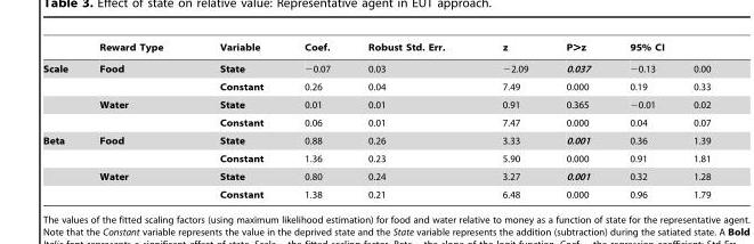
<table><thead><tr><td rowspan="2">Scale</td><td rowspan="2">Reward Type Food</td><td rowspan="2">Variable State</td><td rowspan="2">Coef. −0.07</td><td rowspan="2">Robust Std. Err. 0.03</td><td rowspan="2">z −2.09</td><td rowspan="2">P&gt;z 0.037</td><td colspan="2">95% CI</td></tr><tr><td>−0.13</td><td>0.00</td></tr></thead><tbody><tr><td></td><td></td><td>Constant</td><td>0.26</td><td>0.04</td><td>7.49</td><td>0.000</td><td>0.19</td><td>0.33</td></tr><tr><td></td><td>Water</td><td>State</td><td>0.01</td><td>0.01</td><td>0.91</td><td>0.365</td><td>−0.01</td><td>0.02</td></tr><tr><td></td><td></td><td>Constant</td><td>0.06</td><td>0.01</td><td>7.47</td><td>0.000</td><td>0.04</td><td>0.07</td></tr><tr><td rowspan="4">Beta</td><td>Food</td><td>State</td><td>0.88</td><td>0.26</td><td>3.33</td><td>0.001</td><td>0.36</td><td>1.39</td></tr><tr><td></td><td>Constant</td><td>1.36</td><td>0.23</td><td>5.90</td><td>0.000</td><td>0.91</td><td>1.81</td></tr><tr><td>Water</td><td>State</td><td>0.80</td><td>0.24</td><td>3.27</td><td>0.001</td><td>0.32</td><td>1.28</td></tr><tr><td></td><td>Constant</td><td>1.38</td><td>0.21</td><td>6.48</td><td>0.000</td><td>0.96</td><td>1.79</td></tr></tbody></table>